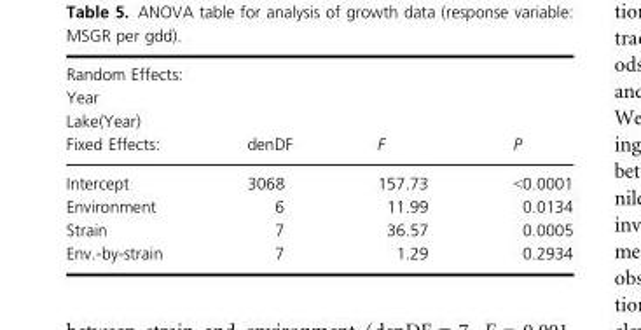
<table><thead><tr><td colspan="4">Random Effects:</td></tr><tr><td rowspan="3">Year Lake(Year) Fixed Effects:</td><td rowspan="3">denDF</td><td rowspan="3">F</td><td rowspan="3">P</td></tr><tr></tr><tr></tr></thead><tbody><tr><td>Intercept</td><td>3068</td><td>157.73</td><td>&lt;0.0001</td></tr><tr><td>Environment</td><td>6</td><td>11.99</td><td>0.0134</td></tr><tr><td>Strain</td><td>7</td><td>36.57</td><td>0.0005</td></tr><tr><td>Env.-by-strain</td><td>7</td><td>1.29</td><td>0.2934</td></tr></tbody></table>